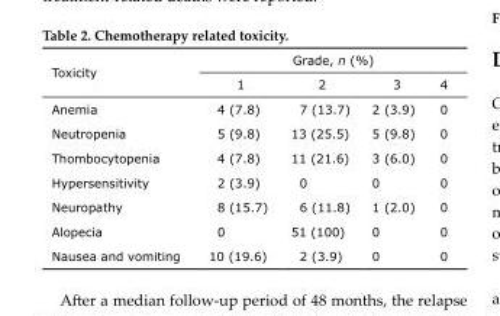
<table><thead><tr><td rowspan="2">Toxicity</td><td colspan="4">Grade, n (%)</td></tr><tr><td>1</td><td>2</td><td>3</td><td>4</td></tr></thead><tbody><tr><td>Anemia</td><td>4 (7.8)</td><td>7 (13.7)</td><td>2 (3.9)</td><td>0</td></tr><tr><td>Neutropenia</td><td>5 (9.8)</td><td>13 (25.5)</td><td>5 (9.8)</td><td>0</td></tr><tr><td>Thombocytopenia</td><td>4 (7.8)</td><td>11 (21.6)</td><td>3 (6.0)</td><td>0</td></tr><tr><td>Hypersensitivity</td><td>2 (3.9)</td><td>0</td><td>0</td><td>0</td></tr><tr><td>Neuropathy</td><td>8 (15.7)</td><td>6 (11.8)</td><td>1 (2.0)</td><td>0</td></tr><tr><td>Alopecia</td><td>0</td><td>51 (100)</td><td>0</td><td>0</td></tr><tr><td>Nausea and vomiting</td><td>10 (19.6)</td><td>2 (3.9)</td><td>0</td><td>0</td></tr></tbody></table>